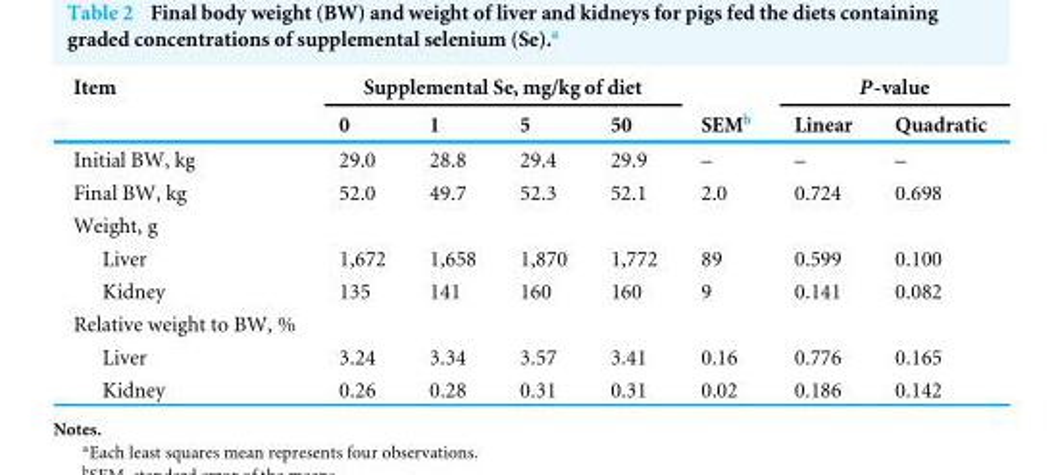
<table><thead><tr><td rowspan="2">Item</td><td colspan="4">Supplemental Se, mg/kg of diet</td><td rowspan="2">SEM<sup>b</sup></td><td colspan="2">P-value</td></tr><tr><td>0</td><td>1</td><td>5</td><td>50</td><td>Linear</td><td>Quadratic</td></tr></thead><tbody><tr><td>Initial BW, kg</td><td>29.0</td><td>28.8</td><td>29.4</td><td>29.9</td><td>–</td><td>–</td><td>–</td></tr><tr><td>Final BW, kg</td><td>52.0</td><td>49.7</td><td>52.3</td><td>52.1</td><td>2.0</td><td>0.724</td><td>0.698</td></tr><tr><td colspan="8">Weight, g</td></tr><tr><td>Liver</td><td>1,672</td><td>1,658</td><td>1,870</td><td>1,772</td><td>89</td><td>0.599</td><td>0.100</td></tr><tr><td>Kidney</td><td>135</td><td>141</td><td>160</td><td>160</td><td>9</td><td>0.141</td><td>0.082</td></tr><tr><td colspan="8">Relative weight to BW, %</td></tr><tr><td>Liver</td><td>3.24</td><td>3.34</td><td>3.57</td><td>3.41</td><td>0.16</td><td>0.776</td><td>0.165</td></tr><tr><td>Kidney</td><td>0.26</td><td>0.28</td><td>0.31</td><td>0.31</td><td>0.02</td><td>0.186</td><td>0.142</td></tr></tbody></table>